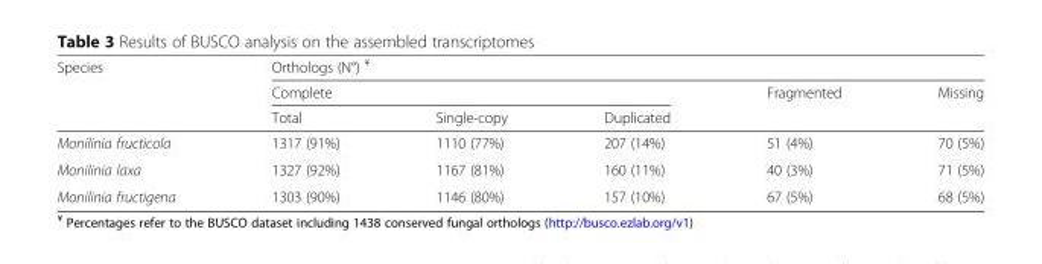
<table><thead><tr><td rowspan="3">Species</td><td colspan="5">Orthologs (N°) <sup>¥</sup></td></tr><tr><td colspan="3">Complete</td><td rowspan="2">Fragmented</td><td rowspan="2">Missing</td></tr><tr><td>Total</td><td>Single-copy</td><td>Duplicated</td></tr></thead><tbody><tr><td>Monilinia fructicola</td><td>1317 (91%)</td><td>1110 (77%)</td><td>207 (14%)</td><td>51 (4%)</td><td>70 (5%)</td></tr><tr><td>Monilinia laxa</td><td>1327 (92%)</td><td>1167 (81%)</td><td>160 (11%)</td><td>40 (3%)</td><td>71 (5%)</td></tr><tr><td>Monilinia fructigena</td><td>1303 (90%)</td><td>1146 (80%)</td><td>157 (10%)</td><td>67 (5%)</td><td>68 (5%)</td></tr></tbody></table>